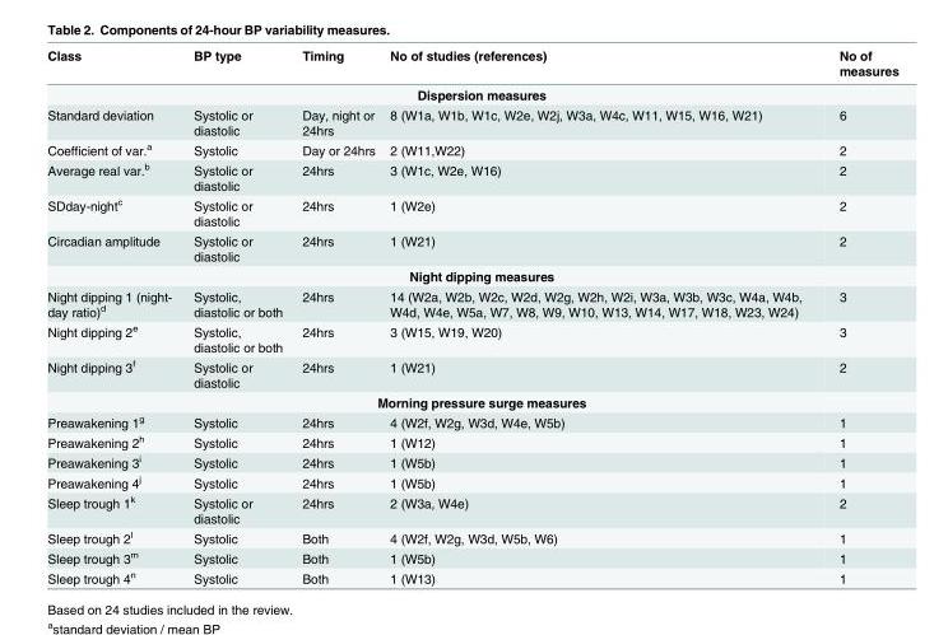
<table><thead><tr><td>Class</td><td>BP type</td><td>Timing</td><td>No of studies (references)</td><td>No of measures</td></tr></thead><tbody><tr><td colspan="5">Dispersion measures</td></tr><tr><td>Standard deviation</td><td>Systolic or diastolic</td><td>Day, night or 24hrs</td><td>8 (W1a, W1b, W1c, W2e, W2j, W3a, W4c, W11, W15, W16, W21)</td><td>6</td></tr><tr><td>Coefficient of var.<sup>a</sup></td><td>Systolic</td><td>Day or 24hrs</td><td>2 (W11,W22)</td><td>2</td></tr><tr><td>Average real var.<sup>b</sup></td><td>Systolic or diastolic</td><td>24hrs</td><td>3 (W1c, W2e, W16)</td><td>2</td></tr><tr><td>SDday-night<sup>c</sup></td><td>Systolic or diastolic</td><td>24hrs</td><td>1 (W2e)</td><td>2</td></tr><tr><td>Circadian amplitude</td><td>Systolic or diastolic</td><td>24hrs</td><td>1 (W21)</td><td>2</td></tr><tr><td colspan="5">Night dipping measures</td></tr><tr><td>Night dipping 1 (night- day ratio)<sup>d</sup></td><td>Systolic, diastolic or both</td><td>24hrs</td><td>14 (W2a, W2b, W2c, W2d, W2g, W2h, W2i, W3a, W3b, W3c, W4a, W4b, W4d, W4e, W5a, W7, W8, W9, W10, W13, W14, W17, W18, W23, W24)</td><td>3</td></tr><tr><td>Night dipping 2<sup>e</sup></td><td>Systolic, diastolic or both</td><td>24hrs</td><td>3 (W15, W19, W20)</td><td>3</td></tr><tr><td>Night dipping 3<sup>f</sup></td><td>Systolic or diastolic</td><td>24hrs</td><td>1 (W21)</td><td>2</td></tr><tr><td colspan="5">Morning pressure surge measures</td></tr><tr><td>Preawakening 1<sup>g</sup></td><td>Systolic</td><td>24hrs</td><td>4 (W2f, W2g, W3d, W4e, W5b)</td><td>1</td></tr><tr><td>Preawakening 2<sup>h</sup></td><td>Systolic</td><td>24hrs</td><td>1 (W12)</td><td>1</td></tr><tr><td>Preawakening 3<sup>i</sup></td><td>Systolic</td><td>24hrs</td><td>1 (W5b)</td><td>1</td></tr><tr><td>Preawakening 4<sup>j</sup></td><td>Systolic</td><td>24hrs</td><td>1 (W5b)</td><td>1</td></tr><tr><td>Sleep trough 1<sup>k</sup></td><td>Systolic or diastolic</td><td>24hrs</td><td>2 (W3a, W4e)</td><td>2</td></tr><tr><td>Sleep trough 2<sup>l</sup></td><td>Systolic</td><td>Both</td><td>4 (W2f, W2g, W3d, W5b, W6)</td><td>1</td></tr><tr><td>Sleep trough 3<sup>m</sup></td><td>Systolic</td><td>Both</td><td>1 (W5b)</td><td>1</td></tr><tr><td>Sleep trough 4<sup>n</sup></td><td>Systolic</td><td>Both</td><td>1 (W13)</td><td>1</td></tr></tbody></table>